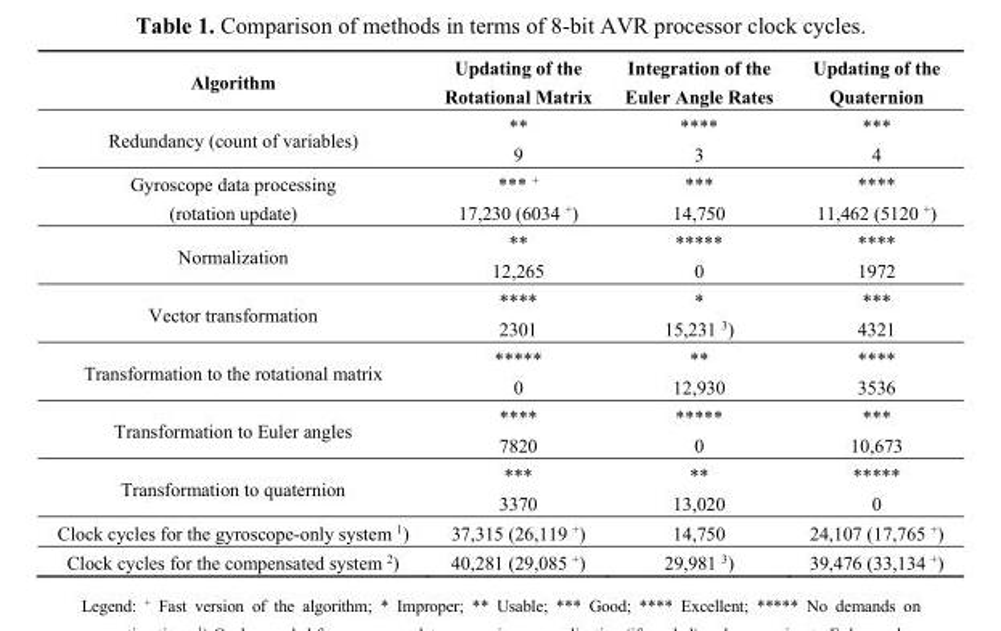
<table><thead><tr><td>Algorithm</td><td>Updating of the Rotational Matrix</td><td>Integration of the Euler Angle Rates</td><td>Updating of the Quaternion</td></tr></thead><tbody><tr><td>Redundancy (count of variables)</td><td>** 9</td><td>**** 3</td><td>*** 4</td></tr><tr><td>Gyroscope data processing (rotation update)</td><td>*** <sup>+</sup> 17,230 (6034 <sup>+</sup>)</td><td>*** 14,750</td><td>**** 11,462 (5120 <sup>+</sup>)</td></tr><tr><td>Normalization</td><td>** 12,265</td><td>***** 0</td><td>**** 1972</td></tr><tr><td>Vector transformation</td><td>**** 2301</td><td>* 15,231 <sup>3</sup>)</td><td>*** 4321</td></tr><tr><td>Transformation to the rotational matrix</td><td>***** 0</td><td>** 12,930</td><td>**** 3536</td></tr><tr><td>Transformation to Euler angles</td><td>**** 7820</td><td>***** 0</td><td>*** 10,673</td></tr><tr><td>Transformation to quaternion</td><td>*** 3370</td><td>** 13,020</td><td>***** 0</td></tr><tr><td>Clock cycles for the gyroscope-only system <sup>1</sup>)</td><td>37,315 (26,119 <sup>+</sup>)</td><td>14,750</td><td>24,107 (17,765 <sup>+</sup>)</td></tr><tr><td>Clock cycles for the compensated system <sup>2</sup>)</td><td>40,281 (29,085 <sup>+</sup>)</td><td>29,981 <sup>3</sup>)</td><td>39,476 (33,134 <sup>+</sup>)</td></tr></tbody></table>